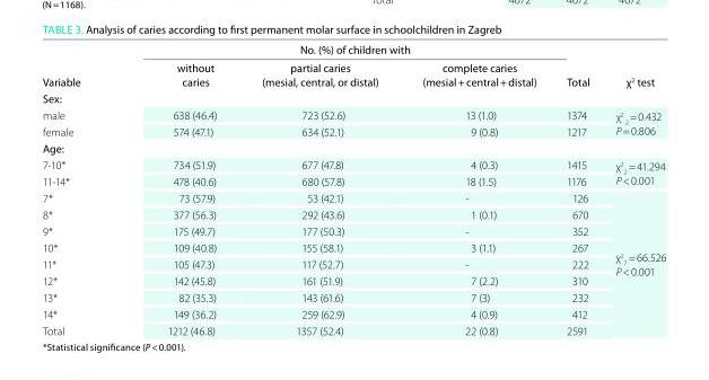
<table><thead><tr><td rowspan="2">Variable</td><td colspan="3">No. (%) of children with</td><td rowspan="2">total</td><td rowspan="2">χ<sup>2</sup> test</td></tr><tr><td>without caries</td><td>partial caries (mesial, central, or distal)</td><td>complete caries (mesial + central + distal)</td></tr></thead><tbody><tr><td colspan="6">sex:</td></tr><tr><td>male</td><td>638 (46.4)</td><td>723 (52.6)</td><td>13 (1.0)</td><td>1374</td><td rowspan="2">χ<sup>2</sup> <sub>2</sub> = 0.432 P = 0.806</td></tr><tr><td>female</td><td>574 (47.1)</td><td>634 (52.1)</td><td>9 (0.8)</td><td>1217</td></tr><tr><td colspan="6">age:</td></tr><tr><td>7-10*</td><td>734 (51.9)</td><td>677 (47.8)</td><td>4 (0.3)</td><td>1415</td><td rowspan="2">χ<sup>2</sup> <sub>2</sub> = 41.294 P &lt; 0.001</td></tr><tr><td>11-14*</td><td>478 (40.6)</td><td>680 (57.8)</td><td>18 (1.5)</td><td>1176</td></tr><tr><td>7*</td><td>73 (57.9)</td><td>53 (42.1)</td><td>-</td><td>126</td><td rowspan="9">χ<sup>2</sup> <sub>7</sub> = 66.526 P &lt; 0.001</td></tr><tr><td>8*</td><td>377 (56.3)</td><td>292 (43.6)</td><td>1 (0.1)</td><td>670</td></tr><tr><td>9*</td><td>175 (49.7)</td><td>177 (50.3)</td><td>-</td><td>352</td></tr><tr><td>10*</td><td>109 (40.8)</td><td>155 (58.1)</td><td>3 (1.1)</td><td>267</td></tr><tr><td>11*</td><td>105 (47.3)</td><td>117 (52.7)</td><td>-</td><td>222</td></tr><tr><td>12*</td><td>142 (45.8)</td><td>161 (51.9)</td><td>7 (2.2)</td><td>310</td></tr><tr><td>13*</td><td>82 (35.3)</td><td>143 (61.6)</td><td>7 (3)</td><td>232</td></tr><tr><td>14*</td><td>149 (36.2)</td><td>259 (62.9)</td><td>4 (0.9)</td><td>412</td></tr><tr><td>Total</td><td>1212 (46.8)</td><td>1357 (52.4)</td><td>22 (0.8)</td><td>2591</td></tr></tbody></table>